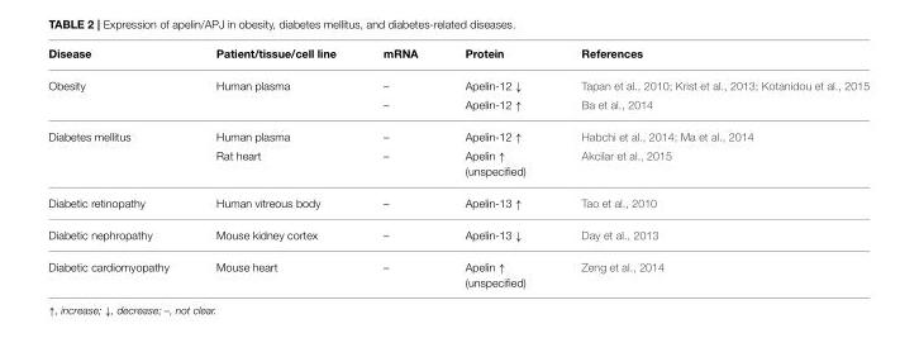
<table><thead><tr><td>Disease</td><td>Patient/tissue/cell line</td><td>mRNA</td><td>Protein</td><td>References</td></tr></thead><tbody><tr><td rowspan="2">Obesity</td><td>Human plasma</td><td>–</td><td>Apelin-12 ↓</td><td>Tapan et al., 2010; Krist et al., 2013; Kotanidou et al., 2015</td></tr><tr><td></td><td>–</td><td>Apelin-12 ↑</td><td>Ba et al., 2014</td></tr><tr><td rowspan="2">Diabetes mellitus</td><td>Human plasma</td><td>–</td><td>Apelin-12 ↑</td><td>Habchi et al., 2014; Ma et al., 2014</td></tr><tr><td>Rat heart</td><td>–</td><td>Apelin ↑ (unspecified)</td><td>Akcilar et al., 2015</td></tr><tr><td>Diabetic retinopathy</td><td>Human vitreous body</td><td>–</td><td>Apelin-13 ↑</td><td>Tao et al., 2010</td></tr><tr><td>Diabetic nephropathy</td><td>Mouse kidney cortex</td><td>–</td><td>Apelin-13 ↓</td><td>Day et al., 2013</td></tr><tr><td>Diabetic cardiomyopathy</td><td>Mouse heart</td><td>–</td><td>Apelin ↑ (unspecified)</td><td>Zeng et al., 2014</td></tr></tbody></table>